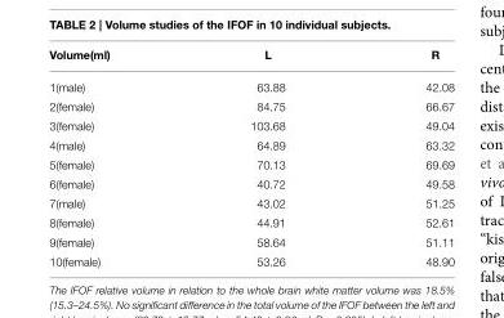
<table><thead><tr><td>Volume(ml)</td><td>L</td><td>R</td></tr></thead><tbody><tr><td>1(male)</td><td>63.88</td><td>42.08</td></tr><tr><td>2(female)</td><td>84.75</td><td>66.67</td></tr><tr><td>3(female)</td><td>103.68</td><td>49.04</td></tr><tr><td>4(male)</td><td>64.89</td><td>63.32</td></tr><tr><td>5(female)</td><td>70.13</td><td>69.69</td></tr><tr><td>6(female)</td><td>40.72</td><td>49.58</td></tr><tr><td>7(male)</td><td>43.02</td><td>51.25</td></tr><tr><td>8(female)</td><td>44.91</td><td>52.61</td></tr><tr><td>9(female)</td><td>58.64</td><td>51.11</td></tr><tr><td>10(female)</td><td>53.26</td><td>48.90</td></tr></tbody></table>